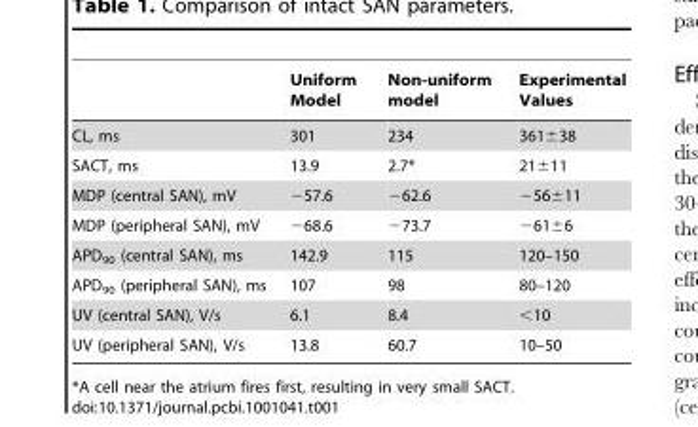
<table><thead><tr><td></td><td>Uniform Model</td><td>Non-uniform model</td><td>Experimental Values</td></tr></thead><tbody><tr><td>CL, ms</td><td>301</td><td>234</td><td>361±38</td></tr><tr><td>SACT, ms</td><td>13.9</td><td>2.7*</td><td>21±11</td></tr><tr><td>MDP (central SAN), mV</td><td>−57.6</td><td>−62.6</td><td>−56±11</td></tr><tr><td>MDP (peripheral SAN), mV</td><td>−68.6</td><td>−73.7</td><td>−61±6</td></tr><tr><td>APD<sub>90</sub> (central SAN), ms</td><td>142.9</td><td>115</td><td>120–150</td></tr><tr><td>APD<sub>90</sub> (peripheral SAN), ms</td><td>107</td><td>98</td><td>80–120</td></tr><tr><td>UV (central SAN), V/s</td><td>6.1</td><td>8.4</td><td>&lt;10</td></tr><tr><td>UV (peripheral SAN), V/s</td><td>13.8</td><td>60.7</td><td>10–50</td></tr></tbody></table>